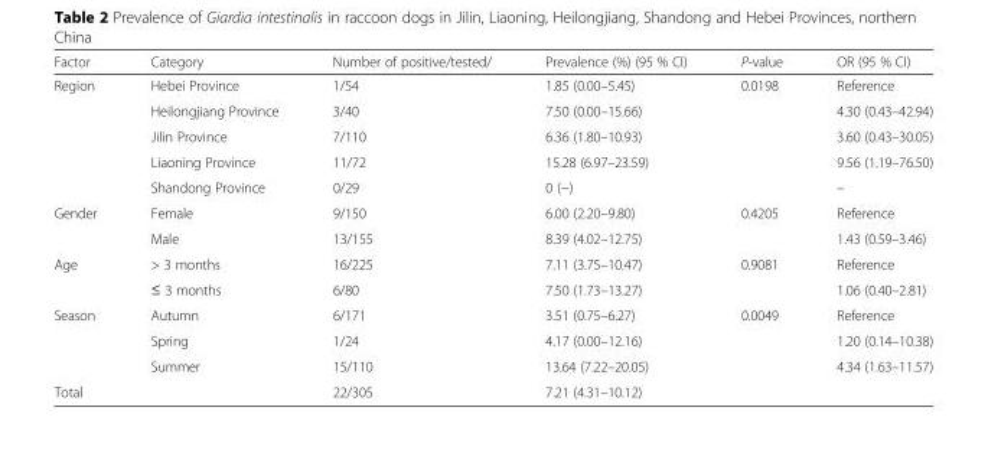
<table><thead><tr><td>Factor</td><td>Category</td><td>Number of positive/tested/</td><td>Prevalence (%) (95 % CI)</td><td>P-value</td><td>OR (95 % CI)</td></tr></thead><tbody><tr><td rowspan="5">Region</td><td>Hebei Province</td><td>1/54</td><td>1.85 (0.00–5.45)</td><td rowspan="5">0.0198</td><td>Reference</td></tr><tr><td>Heilongjiang Province</td><td>3/40</td><td>7.50 (0.00–15.66)</td><td>4.30 (0.43–42.94)</td></tr><tr><td>Jilin Province</td><td>7/110</td><td>6.36 (1.80–10.93)</td><td>3.60 (0.43–30.05)</td></tr><tr><td>Liaoning Province</td><td>11/72</td><td>15.28 (6.97–23.59)</td><td>9.56 (1.19–76.50)</td></tr><tr><td>Shandong Province</td><td>0/29</td><td>0 (−)</td><td>–</td></tr><tr><td rowspan="2">Gender</td><td>Female</td><td>9/150</td><td>6.00 (2.20–9.80)</td><td rowspan="2">0.4205</td><td>Reference</td></tr><tr><td>Male</td><td>13/155</td><td>8.39 (4.02–12.75)</td><td>1.43 (0.59–3.46)</td></tr><tr><td rowspan="2">Age</td><td>&gt; 3 months</td><td>16/225</td><td>7.11 (3.75–10.47)</td><td rowspan="2">0.9081</td><td>Reference</td></tr><tr><td>≤ 3 months</td><td>6/80</td><td>7.50 (1.73–13.27)</td><td>1.06 (0.40–2.81)</td></tr><tr><td rowspan="3">Season</td><td>Autumn</td><td>6/171</td><td>3.51 (0.75–6.27)</td><td rowspan="3">0.0049</td><td>Reference</td></tr><tr><td>Spring</td><td>1/24</td><td>4.17 (0.00–12.16)</td><td>1.20 (0.14–10.38)</td></tr><tr><td>Summer</td><td>15/110</td><td>13.64 (7.22–20.05)</td><td>4.34 (1.63–11.57)</td></tr><tr><td>Total</td><td></td><td>22/305</td><td>7.21 (4.31–10.12)</td><td></td><td></td></tr></tbody></table>